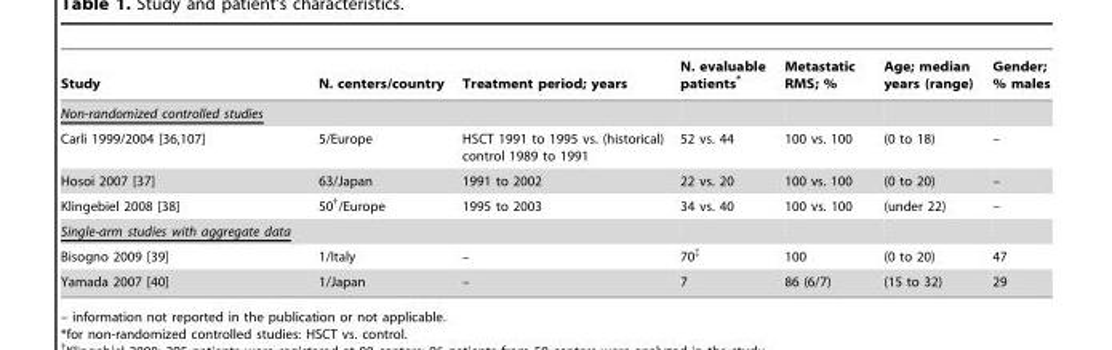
<table><thead><tr><td>Study</td><td>N. centers/country</td><td>Treatment period; years</td><td>N. evaluable patients*</td><td>Metastatic RMS; %</td><td>Age; median years (range)</td><td>Gender; % males</td></tr></thead><tbody><tr><td colspan="7">Non-randomized controlled studies</td></tr><tr><td>Carli 1999/2004 [36,107]</td><td>5/Europe</td><td>HSCT 1991 to 1995 vs. (historical) control 1989 to 1991</td><td>52 vs. 44</td><td>100 vs. 100</td><td>(0 to 18)</td><td>–</td></tr><tr><td>Hosoi 2007 [37]</td><td>63/Japan</td><td>1991 to 2002</td><td>22 vs. 20</td><td>100 vs. 100</td><td>(0 to 20)</td><td>–</td></tr><tr><td>Klingebiel 2008 [38]</td><td>50†/Europe</td><td>1995 to 2003</td><td>34 vs. 40</td><td>100 vs. 100</td><td>(under 22)</td><td>–</td></tr><tr><td colspan="7">Single-arm studies with aggregate data</td></tr><tr><td>Bisogno 2009 [39]</td><td>1/Italy</td><td>–</td><td>70‡</td><td>100</td><td>(0 to 20)</td><td>47</td></tr><tr><td>Yamada 2007 [40]</td><td>1/Japan</td><td>–</td><td>7</td><td>86 (6/7)</td><td>(15 to 32)</td><td>29</td></tr></tbody></table>